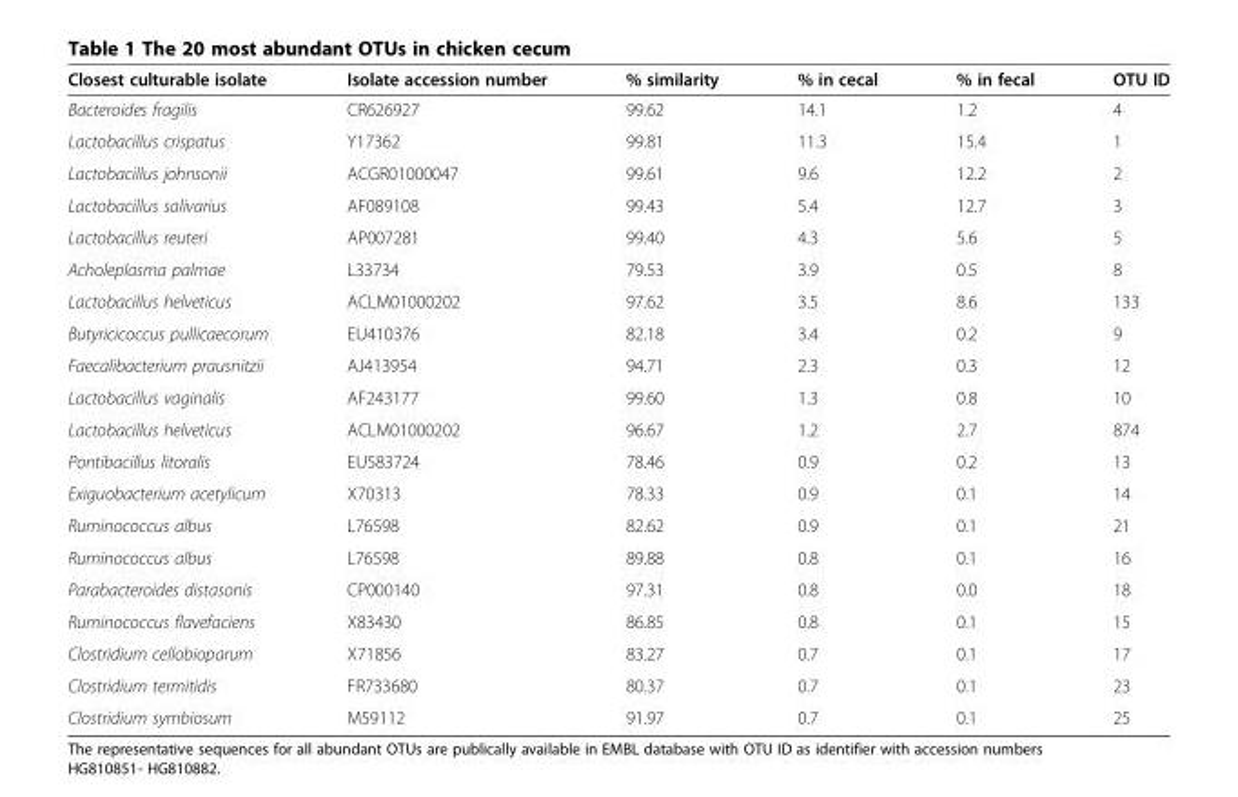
<table><thead><tr><td>Closest culturable isolate</td><td>Isolate accession number</td><td>% similarity</td><td>% in cecal</td><td>% in fecal</td><td>OTU ID</td></tr></thead><tbody><tr><td>Bacteroides fragilis</td><td>CR626927</td><td>99.62</td><td>14.1</td><td>1.2</td><td>4</td></tr><tr><td>Lactobacillus crispatus</td><td>Y17362</td><td>99.81</td><td>11.3</td><td>15.4</td><td>1</td></tr><tr><td>Lactobacillus johnsonii</td><td>ACGR01000047</td><td>99.61</td><td>9.6</td><td>12.2</td><td>2</td></tr><tr><td>Lactobacillus salivarius</td><td>AF089108</td><td>99.43</td><td>5.4</td><td>12.7</td><td>3</td></tr><tr><td>Lactobacillus reuteri</td><td>AP007281</td><td>99.40</td><td>4.3</td><td>5.6</td><td>5</td></tr><tr><td>Acholeplasma palmae</td><td>L33734</td><td>79.53</td><td>3.9</td><td>0.5</td><td>8</td></tr><tr><td>Lactobacillus helveticus</td><td>ACLM01000202</td><td>97.62</td><td>3.5</td><td>8.6</td><td>133</td></tr><tr><td>Butyricicoccus pullicaecorum</td><td>EU410376</td><td>82.18</td><td>3.4</td><td>0.2</td><td>9</td></tr><tr><td>Faecalibacterium prausnitzii</td><td>AJ413954</td><td>94.71</td><td>2.3</td><td>0.3</td><td>12</td></tr><tr><td>Lactobacillus vaginalis</td><td>AF243177</td><td>99.60</td><td>1.3</td><td>0.8</td><td>10</td></tr><tr><td>Lactobacillus helveticus</td><td>ACLM01000202</td><td>96.67</td><td>1.2</td><td>2.7</td><td>874</td></tr><tr><td>Pontibacillus litoralis</td><td>EU583724</td><td>78.46</td><td>0.9</td><td>0.2</td><td>13</td></tr><tr><td>Exiguobacterium acetylicum</td><td>X70313</td><td>78.33</td><td>0.9</td><td>0.1</td><td>14</td></tr><tr><td>Ruminococcus albus</td><td>L76598</td><td>82.62</td><td>0.9</td><td>0.1</td><td>21</td></tr><tr><td>Ruminococcus albus</td><td>L76598</td><td>89.88</td><td>0.8</td><td>0.1</td><td>16</td></tr><tr><td>Parabacteroides distasonis</td><td>CP000140</td><td>97.31</td><td>0.8</td><td>0.0</td><td>18</td></tr><tr><td>Ruminococcus flavefaciens</td><td>X83430</td><td>86.85</td><td>0.8</td><td>0.1</td><td>15</td></tr><tr><td>Clostridium cellobioparum</td><td>X71856</td><td>83.27</td><td>0.7</td><td>0.1</td><td>17</td></tr><tr><td>Clostridium termitidis</td><td>FR733680</td><td>80.37</td><td>0.7</td><td>0.1</td><td>23</td></tr><tr><td>Clostridium symbiosum</td><td>M59112</td><td>91.97</td><td>0.7</td><td>0.1</td><td>25</td></tr></tbody></table>